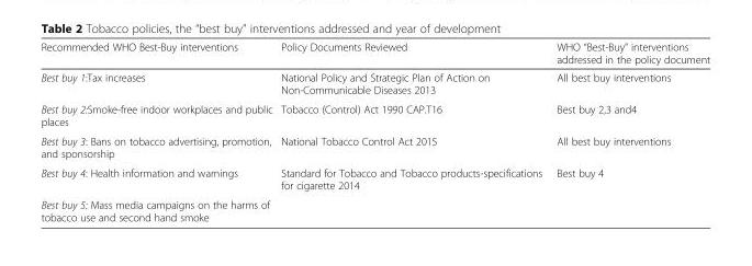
<table><thead><tr><td>Recommended WHO Best-Buy interventions</td><td>Policy Documents Reviewed</td><td>WHO “Best-Buy” interventions addressed in the policy document</td></tr></thead><tbody><tr><td>Best buy 1:Tax increases</td><td>National Policy and Strategic Plan of Action on Non-Communicable Diseases 2013</td><td>All best buy interventions</td></tr><tr><td>Best buy 2:Smoke-free indoor workplaces and public places</td><td>Tobacco (Control) Act 1990 CAP.T16</td><td>Best buy 2,3 and4</td></tr><tr><td>Best buy 3: Bans on tobacco advertising, promotion, and sponsorship</td><td>National Tobacco Control Act 2015</td><td>All best buy interventions</td></tr><tr><td>Best buy 4: Health information and warnings</td><td>Standard for Tobacco and Tobacco products-specifications for cigarette 2014</td><td>Best buy 4</td></tr><tr><td>Best buy 5: Mass media campaigns on the harms of tobacco use and second hand smoke</td><td></td><td></td></tr></tbody></table>